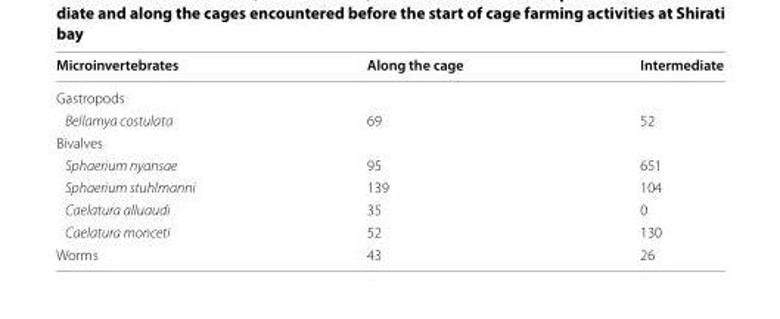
<table><thead><tr><td>Microinvertebrates</td><td>Along the cage</td><td>Intermediate</td></tr></thead><tbody><tr><td colspan="3">Gastropods</td></tr><tr><td>Bellamya costulata</td><td>69</td><td>52</td></tr><tr><td colspan="3">Bivalves</td></tr><tr><td>Sphaerium nyansae</td><td>95</td><td>651</td></tr><tr><td>Sphaerium stuhlmanni</td><td>139</td><td>104</td></tr><tr><td>Caelatura alluaudi</td><td>35</td><td>0</td></tr><tr><td>Caelatura monceti</td><td>52</td><td>130</td></tr><tr><td>Worms</td><td>43</td><td>26</td></tr></tbody></table>